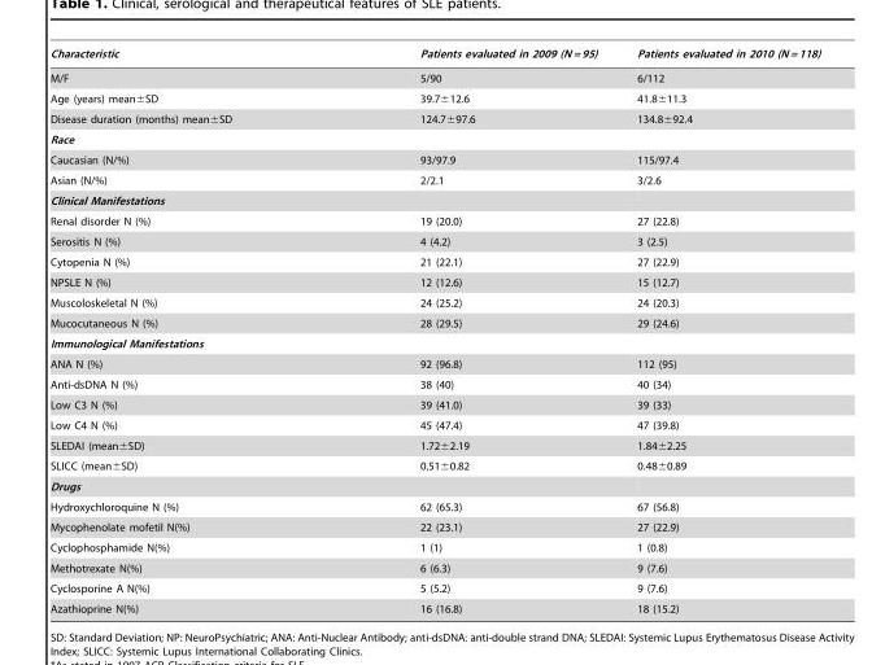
<table><thead><tr><td>Characteristic</td><td>Patients evaluated in 2009 (N = 95)</td><td>Patients evaluated in 2010 (N = 118)</td></tr></thead><tbody><tr><td>M/F</td><td>5/90</td><td>6/112</td></tr><tr><td>Age (years) mean±SD</td><td>39.7±12.6</td><td>41.8±11.3</td></tr><tr><td>Disease duration (months) mean±SD</td><td>124.7±97.6</td><td>134.8±92.4</td></tr><tr><td colspan="3">Race</td></tr><tr><td>Caucasian (N/%)</td><td>93/97.9</td><td>115/97.4</td></tr><tr><td>Asian (N/%)</td><td>2/2.1</td><td>3/2.6</td></tr><tr><td colspan="3">Clinical Manifestations</td></tr><tr><td>Renal disorder N (%)</td><td>19 (20.0)</td><td>27 (22.8)</td></tr><tr><td>Serositis N (%)</td><td>4 (4.2)</td><td>3 (2.5)</td></tr><tr><td>Cytopenia N (%)</td><td>21 (22.1)</td><td>27 (22.9)</td></tr><tr><td>NPSLE N (%)</td><td>12 (12.6)</td><td>15 (12.7)</td></tr><tr><td>Muscoloskeletal N (%)</td><td>24 (25.2)</td><td>24 (20.3)</td></tr><tr><td>Mucocutaneous N (%)</td><td>28 (29.5)</td><td>29 (24.6)</td></tr><tr><td colspan="3">Immunological Manifestations</td></tr><tr><td>ANA N (%)</td><td>92 (96.8)</td><td>112 (95)</td></tr><tr><td>Anti-dsDNA N (%)</td><td>38 (40)</td><td>40 (34)</td></tr><tr><td>Low C3 N (%)</td><td>39 (41.0)</td><td>39 (33)</td></tr><tr><td>Low C4 N (%)</td><td>45 (47.4)</td><td>47 (39.8)</td></tr><tr><td>SLEDAI (mean±SD)</td><td>1.72±2.19</td><td>1.84±2.25</td></tr><tr><td>SLICC (mean±SD)</td><td>0.51±0.82</td><td>0.48±0.89</td></tr><tr><td colspan="3">Drugs</td></tr><tr><td>Hydroxychloroquine N (%)</td><td>62 (65.3)</td><td>67 (56.8)</td></tr><tr><td>Mycophenolate mofetil N(%)</td><td>22 (23.1)</td><td>27 (22.9)</td></tr><tr><td>Cyclophosphamide N(%)</td><td>1 (1)</td><td>1 (0.8)</td></tr><tr><td>Methotrexate N(%)</td><td>6 (6.3)</td><td>9 (7.6)</td></tr><tr><td>Cyclosporine A N(%)</td><td>5 (5.2)</td><td>9 (7.6)</td></tr><tr><td>Azathioprine N(%)</td><td>16 (16.8)</td><td>18 (15.2)</td></tr></tbody></table>